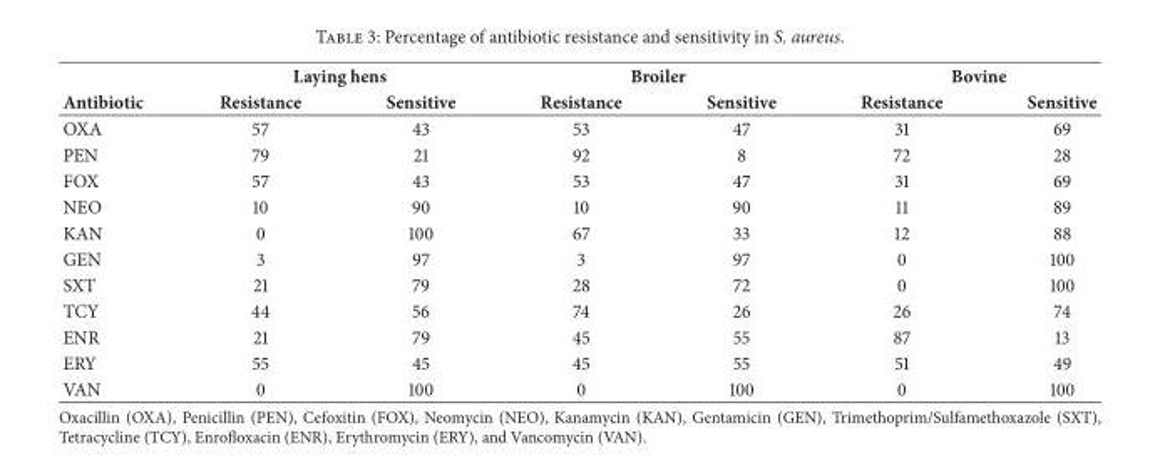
<table><thead><tr><td rowspan="2">Antibiotic</td><td colspan="2">Laying hens</td><td colspan="2">Broiler</td><td colspan="2">Bovine</td></tr><tr><td>Resistance</td><td>Sensitive</td><td>Resistance</td><td>Sensitive</td><td>Resistance</td><td>Sensitive</td></tr></thead><tbody><tr><td>OXA</td><td>57</td><td>43</td><td>53</td><td>47</td><td>31</td><td>69</td></tr><tr><td>PEN</td><td>79</td><td>21</td><td>92</td><td>8</td><td>72</td><td>28</td></tr><tr><td>FOX</td><td>57</td><td>43</td><td>53</td><td>47</td><td>31</td><td>69</td></tr><tr><td>NEO</td><td>10</td><td>90</td><td>10</td><td>90</td><td>11</td><td>89</td></tr><tr><td>KAN</td><td>0</td><td>100</td><td>67</td><td>33</td><td>12</td><td>88</td></tr><tr><td>GEN</td><td>3</td><td>97</td><td>3</td><td>97</td><td>0</td><td>100</td></tr><tr><td>SXT</td><td>21</td><td>79</td><td>28</td><td>72</td><td>0</td><td>100</td></tr><tr><td>TCY</td><td>44</td><td>56</td><td>74</td><td>26</td><td>26</td><td>74</td></tr><tr><td>ENR</td><td>21</td><td>79</td><td>45</td><td>55</td><td>87</td><td>13</td></tr><tr><td>ERY</td><td>55</td><td>45</td><td>45</td><td>55</td><td>51</td><td>49</td></tr><tr><td>VAN</td><td>0</td><td>100</td><td>0</td><td>100</td><td>0</td><td>100</td></tr></tbody></table>